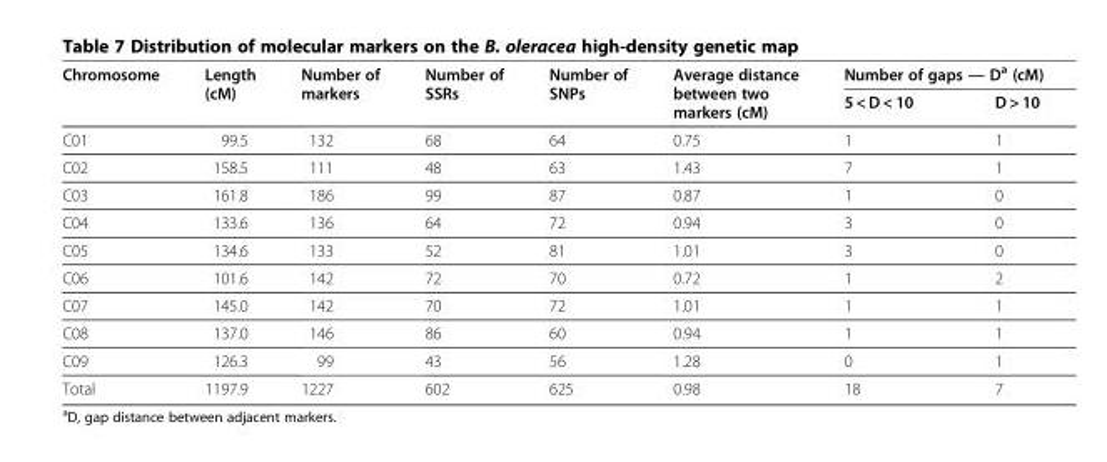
<table><thead><tr><td rowspan="2">Chromosome</td><td rowspan="2">Length (cM)</td><td rowspan="2">Number of markers</td><td rowspan="2">Number of SSRs</td><td rowspan="2">Number of SNPs</td><td rowspan="2">Average distance between two markers (cM)</td><td colspan="2">Number of gaps — D<sup>a</sup> (cM)</td></tr><tr><td>5 &lt; D &lt; 10</td><td>D &gt; 10</td></tr></thead><tbody><tr><td>C01</td><td>99.5</td><td>132</td><td>68</td><td>64</td><td>0.75</td><td>1</td><td>1</td></tr><tr><td>C02</td><td>158.5</td><td>111</td><td>48</td><td>63</td><td>1.43</td><td>7</td><td>1</td></tr><tr><td>C03</td><td>161.8</td><td>186</td><td>99</td><td>87</td><td>0.87</td><td>1</td><td>0</td></tr><tr><td>C04</td><td>133.6</td><td>136</td><td>64</td><td>72</td><td>0.94</td><td>3</td><td>0</td></tr><tr><td>C05</td><td>134.6</td><td>133</td><td>52</td><td>81</td><td>1.01</td><td>3</td><td>0</td></tr><tr><td>C06</td><td>101.6</td><td>142</td><td>72</td><td>70</td><td>0.72</td><td>1</td><td>2</td></tr><tr><td>C07</td><td>145.0</td><td>142</td><td>70</td><td>72</td><td>1.01</td><td>1</td><td>1</td></tr><tr><td>C08</td><td>137.0</td><td>146</td><td>86</td><td>60</td><td>0.94</td><td>1</td><td>1</td></tr><tr><td>C09</td><td>126.3</td><td>99</td><td>43</td><td>56</td><td>1.28</td><td>0</td><td>1</td></tr><tr><td>Total</td><td>1197.9</td><td>1227</td><td>602</td><td>625</td><td>0.98</td><td>18</td><td>7</td></tr></tbody></table>